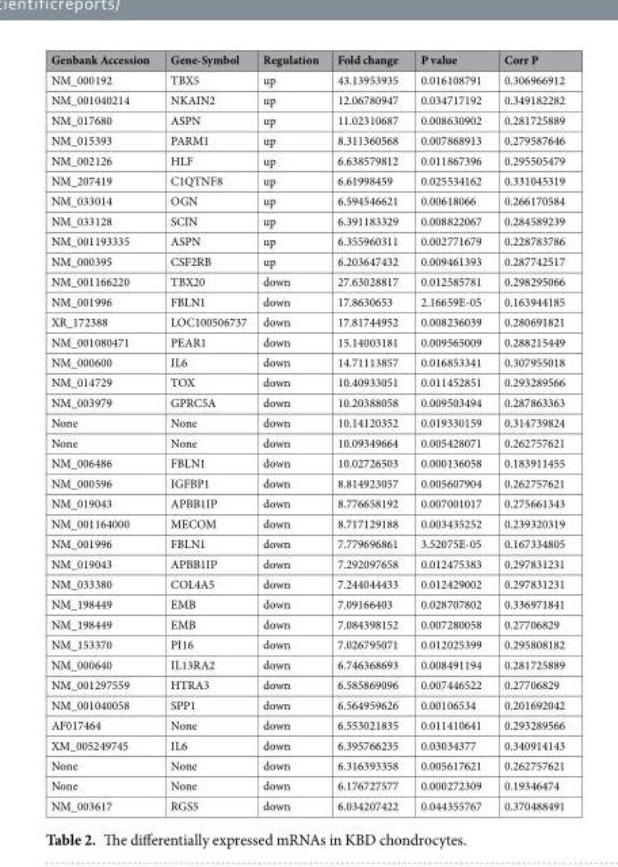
<table><thead><tr><td>Genbank Accession</td><td>Gene-Symbol</td><td>Regulation</td><td>Fold change</td><td>P value</td><td>Corr P</td></tr></thead><tbody><tr><td>NM_000192</td><td>TBX5</td><td>up</td><td>43.13953935</td><td>0.016108791</td><td>0.306966912</td></tr><tr><td>NM_001040214</td><td>NKAIN2</td><td>up</td><td>12.06780947</td><td>0.034717192</td><td>0.349182282</td></tr><tr><td>NM_017680</td><td>ASPN</td><td>up</td><td>11.02310687</td><td>0.008630902</td><td>0.281725889</td></tr><tr><td>NM_015393</td><td>PARM1</td><td>up</td><td>8.311360568</td><td>0.007868913</td><td>0.279587646</td></tr><tr><td>NM_002126</td><td>HLF</td><td>up</td><td>6.638579812</td><td>0.011867396</td><td>0.295505479</td></tr><tr><td>NM_207419</td><td>C1QTNF8</td><td>up</td><td>6.61998459</td><td>0.025534162</td><td>0.331045319</td></tr><tr><td>NM_033014</td><td>OGN</td><td>up</td><td>6.594546621</td><td>0.00618066</td><td>0.266170584</td></tr><tr><td>NM_033128</td><td>SCIN</td><td>up</td><td>6.391183329</td><td>0.008822067</td><td>0.284589239</td></tr><tr><td>NM_001193335</td><td>ASPN</td><td>up</td><td>6.355960311</td><td>0.002771679</td><td>0.228783786</td></tr><tr><td>NM_000395</td><td>CSF2RB</td><td>up</td><td>6.203647432</td><td>0.009461393</td><td>0.287742517</td></tr><tr><td>NM_001166220</td><td>TBX20</td><td>down</td><td>27.63028817</td><td>0.012585781</td><td>0.298295066</td></tr><tr><td>NM_001996</td><td>FBLN1</td><td>down</td><td>17.8630653</td><td>2.16659E-05</td><td>0.163944185</td></tr><tr><td>XR_172388</td><td>LOC100506737</td><td>down</td><td>17.81744952</td><td>0.008236039</td><td>0.280691821</td></tr><tr><td>NM_001080471</td><td>PEAR1</td><td>down</td><td>15.14003181</td><td>0.009565009</td><td>0.288215449</td></tr><tr><td>NM_000600</td><td>IL6</td><td>down</td><td>14.71113857</td><td>0.016853341</td><td>0.307955018</td></tr><tr><td>NM_014729</td><td>TOX</td><td>down</td><td>10.40933051</td><td>0.011452851</td><td>0.293289566</td></tr><tr><td>NM_003979</td><td>GPRC5A</td><td>down</td><td>10.20388058</td><td>0.009503494</td><td>0.287863363</td></tr><tr><td>None</td><td>None</td><td>down</td><td>10.14120352</td><td>0.019330159</td><td>0.314739824</td></tr><tr><td>None</td><td>None</td><td>down</td><td>10.09349664</td><td>0.005428071</td><td>0.262757621</td></tr><tr><td>NM_006486</td><td>FBLN1</td><td>down</td><td>10.02726503</td><td>0.000136058</td><td>0.183911455</td></tr><tr><td>NM_000596</td><td>IGFBP1</td><td>down</td><td>8.814923057</td><td>0.005607904</td><td>0.262757621</td></tr><tr><td>NM_019043</td><td>APBB1IP</td><td>down</td><td>8.776658192</td><td>0.007001017</td><td>0.275661343</td></tr><tr><td>NM_001164000</td><td>MECOM</td><td>down</td><td>8.717129188</td><td>0.003435252</td><td>0.239320319</td></tr><tr><td>NM_001996</td><td>FBLN1</td><td>down</td><td>7.779696861</td><td>3.52075E-05</td><td>0.167334805</td></tr><tr><td>NM_019043</td><td>APBB1IP</td><td>down</td><td>7.292097658</td><td>0.012475383</td><td>0.297831231</td></tr><tr><td>NM_033380</td><td>COL4A5</td><td>down</td><td>7.244044433</td><td>0.012429002</td><td>0.297831231</td></tr><tr><td>NM_198449</td><td>EMB</td><td>down</td><td>7.09166403</td><td>0.028707802</td><td>0.336971841</td></tr><tr><td>NM_198449</td><td>EMB</td><td>down</td><td>7.084398152</td><td>0.007280058</td><td>0.27706829</td></tr><tr><td>NM_153370</td><td>PI16</td><td>down</td><td>7.026795071</td><td>0.012025399</td><td>0.295808182</td></tr><tr><td>NM_000640</td><td>IL13RA2</td><td>down</td><td>6.746368693</td><td>0.008491194</td><td>0.281725889</td></tr><tr><td>NM_001297559</td><td>HTRA3</td><td>down</td><td>6.585869096</td><td>0.007446522</td><td>0.27706829</td></tr><tr><td>NM_001040058</td><td>SPP1</td><td>down</td><td>6.564959626</td><td>0.00106534</td><td>0.201692042</td></tr><tr><td>AF017464</td><td>None</td><td>down</td><td>6.553021835</td><td>0.011410641</td><td>0.293289566</td></tr><tr><td>XM_005249745</td><td>IL6</td><td>down</td><td>6.395766235</td><td>0.03034377</td><td>0.340914143</td></tr><tr><td>None</td><td>None</td><td>down</td><td>6.316393358</td><td>0.005617621</td><td>0.262757621</td></tr><tr><td>None</td><td>None</td><td>down</td><td>6.176727577</td><td>0.000272309</td><td>0.19346474</td></tr><tr><td>NM_003617</td><td>RGS5</td><td>down</td><td>6.034207422</td><td>0.044355767</td><td>0.370488491</td></tr></tbody></table>